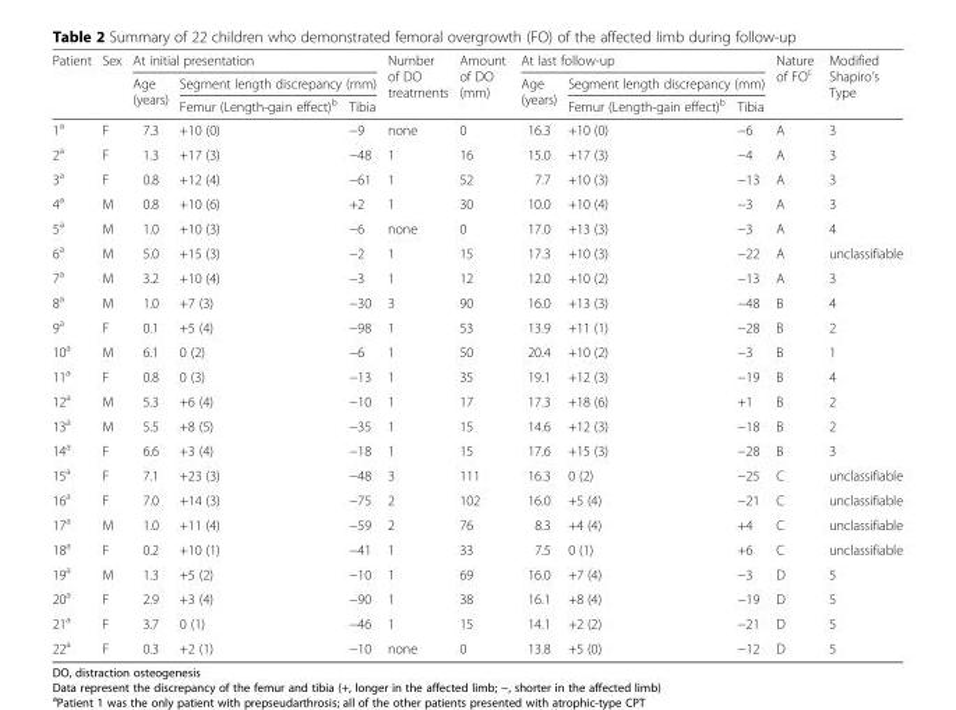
<table><thead><tr><td rowspan="3">Patient</td><td rowspan="3">Sex</td><td colspan="3">At initial presentation</td><td rowspan="3">Number of DO treatments</td><td rowspan="3">Amount of DO (mm)</td><td colspan="3">At last follow-up</td><td rowspan="3">Nature of FO<sup>c</sup></td><td rowspan="3">Modified Shapiro’s Type</td></tr><tr><td rowspan="2">Age (years)</td><td colspan="2">Segment length discrepancy (mm)</td><td rowspan="2">Age (years)</td><td colspan="2">Segment length discrepancy (mm)</td></tr><tr><td>Femur (Length-gain effect)<sup>b</sup></td><td>Tibia</td><td>Femur (Length-gain effect)<sup>b</sup></td><td>Tibia</td></tr></thead><tbody><tr><td>1<sup>a</sup></td><td>F</td><td>7.3</td><td>+10 (0)</td><td>−9</td><td>none</td><td>0</td><td>16.3</td><td>+10 (0)</td><td>−6</td><td>A</td><td>3</td></tr><tr><td>2<sup>a</sup></td><td>F</td><td>1.3</td><td>+17 (3)</td><td>−48</td><td>1</td><td>16</td><td>15.0</td><td>+17 (3)</td><td>−4</td><td>A</td><td>3</td></tr><tr><td>3<sup>a</sup></td><td>F</td><td>0.8</td><td>+12 (4)</td><td>−61</td><td>1</td><td>52</td><td>7.7</td><td>+10 (3)</td><td>−13</td><td>A</td><td>3</td></tr><tr><td>4<sup>a</sup></td><td>M</td><td>0.8</td><td>+10 (6)</td><td>+2</td><td>1</td><td>30</td><td>10.0</td><td>+10 (4)</td><td>−3</td><td>A</td><td>3</td></tr><tr><td>5<sup>a</sup></td><td>M</td><td>1.0</td><td>+10 (3)</td><td>−6</td><td>none</td><td>0</td><td>17.0</td><td>+13 (3)</td><td>−3</td><td>A</td><td>4</td></tr><tr><td>6<sup>a</sup></td><td>M</td><td>5.0</td><td>+15 (3)</td><td>−2</td><td>1</td><td>15</td><td>17.3</td><td>+10 (3)</td><td>−22</td><td>A</td><td>unclassifiable</td></tr><tr><td>7<sup>a</sup></td><td>M</td><td>3.2</td><td>+10 (4)</td><td>−3</td><td>1</td><td>12</td><td>12.0</td><td>+10 (2)</td><td>−13</td><td>A</td><td>3</td></tr><tr><td>8<sup>a</sup></td><td>M</td><td>1.0</td><td>+7 (3)</td><td>−30</td><td>3</td><td>90</td><td>16.0</td><td>+13 (3)</td><td>−48</td><td>B</td><td>4</td></tr><tr><td>9<sup>a</sup></td><td>F</td><td>0.1</td><td>+5 (4)</td><td>−98</td><td>1</td><td>53</td><td>13.9</td><td>+11 (1)</td><td>−28</td><td>B</td><td>2</td></tr><tr><td>10<sup>a</sup></td><td>M</td><td>6.1</td><td>0 (2)</td><td>−6</td><td>1</td><td>50</td><td>20.4</td><td>+10 (2)</td><td>−3</td><td>B</td><td>1</td></tr><tr><td>11<sup>a</sup></td><td>F</td><td>0.8</td><td>0 (3)</td><td>−13</td><td>1</td><td>35</td><td>19.1</td><td>+12 (3)</td><td>−19</td><td>B</td><td>4</td></tr><tr><td>12<sup>a</sup></td><td>M</td><td>5.3</td><td>+6 (4)</td><td>−10</td><td>1</td><td>17</td><td>17.3</td><td>+18 (6)</td><td>+1</td><td>B</td><td>2</td></tr><tr><td>13<sup>a</sup></td><td>M</td><td>5.5</td><td>+8 (5)</td><td>−35</td><td>1</td><td>15</td><td>14.6</td><td>+12 (3)</td><td>−18</td><td>B</td><td>2</td></tr><tr><td>14<sup>a</sup></td><td>F</td><td>6.6</td><td>+3 (4)</td><td>−18</td><td>1</td><td>15</td><td>17.6</td><td>+15 (3)</td><td>−28</td><td>B</td><td>3</td></tr><tr><td>15<sup>a</sup></td><td>F</td><td>7.1</td><td>+23 (3)</td><td>−48</td><td>3</td><td>111</td><td>16.3</td><td>0 (2)</td><td>−25</td><td>C</td><td>unclassifiable</td></tr><tr><td>16<sup>a</sup></td><td>F</td><td>7.0</td><td>+14 (3)</td><td>−75</td><td>2</td><td>102</td><td>16.0</td><td>+5 (4)</td><td>−21</td><td>C</td><td>unclassifiable</td></tr><tr><td>17<sup>a</sup></td><td>M</td><td>1.0</td><td>+11 (4)</td><td>−59</td><td>2</td><td>76</td><td>8.3</td><td>+4 (4)</td><td>+4</td><td>C</td><td>unclassifiable</td></tr><tr><td>18<sup>a</sup></td><td>F</td><td>0.2</td><td>+10 (1)</td><td>−41</td><td>1</td><td>33</td><td>7.5</td><td>0 (1)</td><td>+6</td><td>C</td><td>unclassifiable</td></tr><tr><td>19<sup>a</sup></td><td>M</td><td>1.3</td><td>+5 (2)</td><td>−10</td><td>1</td><td>69</td><td>16.0</td><td>+7 (4)</td><td>−3</td><td>D</td><td>5</td></tr><tr><td>20<sup>a</sup></td><td>F</td><td>2.9</td><td>+3 (4)</td><td>−90</td><td>1</td><td>38</td><td>16.1</td><td>+8 (4)</td><td>−19</td><td>D</td><td>5</td></tr><tr><td>21<sup>a</sup></td><td>F</td><td>3.7</td><td>0 (1)</td><td>−46</td><td>1</td><td>15</td><td>14.1</td><td>+2 (2)</td><td>−21</td><td>D</td><td>5</td></tr><tr><td>22<sup>a</sup></td><td>F</td><td>0.3</td><td>+2 (1)</td><td>−10</td><td>none</td><td>0</td><td>13.8</td><td>+5 (0)</td><td>−12</td><td>D</td><td>5</td></tr></tbody></table>